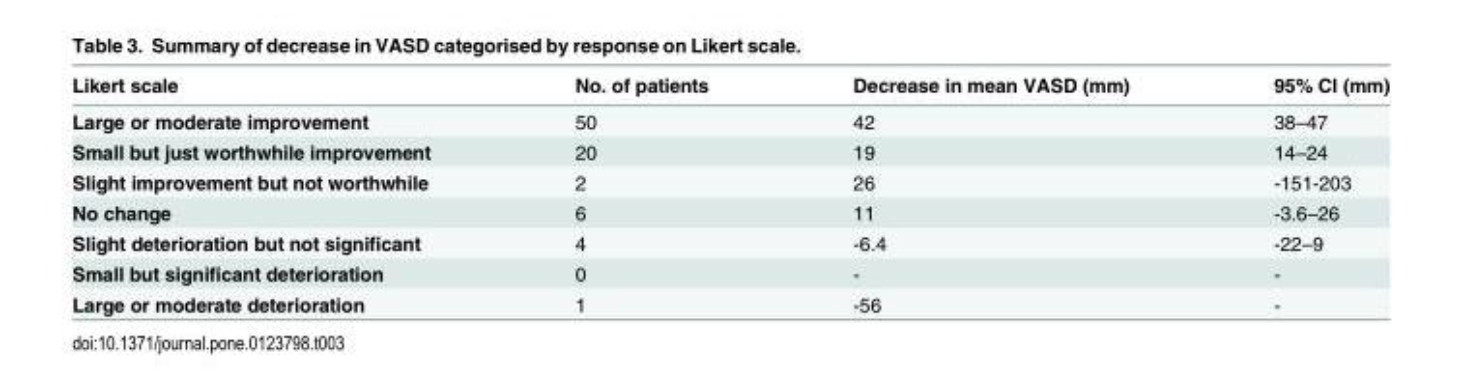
<table><thead><tr><td>Likert scale</td><td>No. of patients</td><td>Decrease in mean VASD (mm)</td><td>95% CI (mm)</td></tr></thead><tbody><tr><td>Large or moderate improvement</td><td>50</td><td>42</td><td>38–47</td></tr><tr><td>Small but just worthwhile improvement</td><td>20</td><td>19</td><td>14–24</td></tr><tr><td>Slight improvement but not worthwhile</td><td>2</td><td>26</td><td>-151-203</td></tr><tr><td>No change</td><td>6</td><td>11</td><td>-3.6–26</td></tr><tr><td>Slight deterioration but not significant</td><td>4</td><td>-6.4</td><td>-22–9</td></tr><tr><td>Small but significant deterioration</td><td>0</td><td>-</td><td>-</td></tr><tr><td>Large or moderate deterioration</td><td>1</td><td>-56</td><td>-</td></tr></tbody></table>